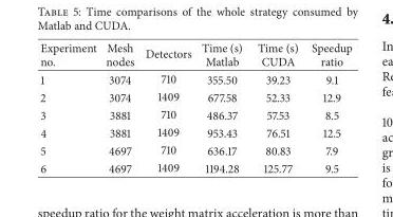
<table><thead><tr><td>Experiment no.</td><td>Mesh nodes</td><td>Detectors</td><td>Time (s) Matlab</td><td>Time (s) CUDA</td><td>Speedup ratio</td></tr></thead><tbody><tr><td>1</td><td>3074</td><td>710</td><td>355.50</td><td>39.23</td><td>9.1</td></tr><tr><td>2</td><td>3074</td><td>1409</td><td>677.58</td><td>52.33</td><td>12.9</td></tr><tr><td>3</td><td>3881</td><td>710</td><td>486.37</td><td>57.53</td><td>8.5</td></tr><tr><td>4</td><td>3881</td><td>1409</td><td>953.43</td><td>76.51</td><td>12.5</td></tr><tr><td>5</td><td>4697</td><td>710</td><td>636.17</td><td>80.83</td><td>7.9</td></tr><tr><td>6</td><td>4697</td><td>1409</td><td>1194.28</td><td>125.77</td><td>9.5</td></tr></tbody></table>